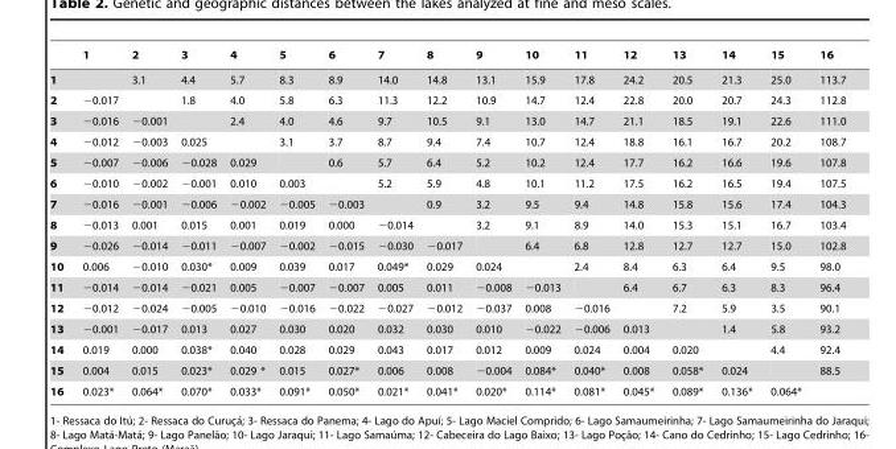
<table><thead><tr><td></td><td>1</td><td>2</td><td>3</td><td>4</td><td>5</td><td>6</td><td>7</td><td>8</td><td>9</td><td>10</td><td>11</td><td>12</td><td>13</td><td>14</td><td>15</td><td>16</td></tr></thead><tbody><tr><td>1</td><td></td><td>3.1</td><td>4.4</td><td>5.7</td><td>8.3</td><td>8.9</td><td>14.0</td><td>14.8</td><td>13.1</td><td>15.9</td><td>17.8</td><td>24.2</td><td>20.5</td><td>21.3</td><td>25.0</td><td>113.7</td></tr><tr><td>2</td><td>−0.017</td><td></td><td>1.8</td><td>4.0</td><td>5.8</td><td>6.3</td><td>11.3</td><td>12.2</td><td>10.9</td><td>14.7</td><td>12.4</td><td>22.8</td><td>20.0</td><td>20.7</td><td>24.3</td><td>112.8</td></tr><tr><td>3</td><td>−0.016</td><td>−0.001</td><td></td><td>2.4</td><td>4.0</td><td>4.6</td><td>9.7</td><td>10.5</td><td>9.1</td><td>13.0</td><td>14.7</td><td>21.1</td><td>18.5</td><td>19.1</td><td>22.6</td><td>111.0</td></tr><tr><td>4</td><td>−0.012</td><td>−0.003</td><td>0.025</td><td></td><td>3.1</td><td>3.7</td><td>8.7</td><td>9.4</td><td>7.4</td><td>10.7</td><td>12.4</td><td>18.8</td><td>16.1</td><td>16.7</td><td>20.2</td><td>108.7</td></tr><tr><td>5</td><td>−0.007</td><td>−0.006</td><td>−0.028</td><td>0.029</td><td></td><td>0.6</td><td>5.7</td><td>6.4</td><td>5.2</td><td>10.2</td><td>12.4</td><td>17.7</td><td>16.2</td><td>16.6</td><td>19.6</td><td>107.8</td></tr><tr><td>6</td><td>−0.010</td><td>−0.002</td><td>−0.001</td><td>0.010</td><td>0.003</td><td></td><td>5.2</td><td>5.9</td><td>4.8</td><td>10.1</td><td>11.2</td><td>17.5</td><td>16.2</td><td>16.5</td><td>19.4</td><td>107.5</td></tr><tr><td>7</td><td>−0.016</td><td>−0.001</td><td>−0.006</td><td>−0.002</td><td>−0.005</td><td>−0.003</td><td></td><td>0.9</td><td>3.2</td><td>9.5</td><td>9.4</td><td>14.8</td><td>15.8</td><td>15.6</td><td>17.4</td><td>104.3</td></tr><tr><td>8</td><td>−0.013</td><td>0.001</td><td>0.015</td><td>0.001</td><td>0.019</td><td>0.000</td><td>−0.014</td><td></td><td>3.2</td><td>9.1</td><td>8.9</td><td>14.0</td><td>15.3</td><td>15.1</td><td>16.7</td><td>103.4</td></tr><tr><td>9</td><td>−0.026</td><td>−0.014</td><td>−0.011</td><td>−0.007</td><td>−0.002</td><td>−0.015</td><td>−0.030</td><td>−0.017</td><td></td><td>6.4</td><td>6.8</td><td>12.8</td><td>12.7</td><td>12.7</td><td>15.0</td><td>102.8</td></tr><tr><td>10</td><td>0.006</td><td>−0.010</td><td>0.030*</td><td>0.009</td><td>0.039</td><td>0.017</td><td>0.049*</td><td>0.029</td><td>0.024</td><td></td><td>2.4</td><td>8.4</td><td>6.3</td><td>6.4</td><td>9.5</td><td>98.0</td></tr><tr><td>11</td><td>−0.014</td><td>−0.014</td><td>−0.021</td><td>0.005</td><td>−0.007</td><td>−0.007</td><td>0.005</td><td>0.011</td><td>−0.008</td><td>−0.013</td><td></td><td>6.4</td><td>6.7</td><td>6.3</td><td>8.3</td><td>96.4</td></tr><tr><td>12</td><td>−0.012</td><td>−0.024</td><td>−0.005</td><td>−0.010</td><td>−0.016</td><td>−0.022</td><td>−0.027</td><td>−0.012</td><td>−0.037</td><td>0.008</td><td>−0.016</td><td></td><td>7.2</td><td>5.9</td><td>3.5</td><td>90.1</td></tr><tr><td>13</td><td>−0.001</td><td>−0.017</td><td>0.013</td><td>0.027</td><td>0.030</td><td>0.020</td><td>0.032</td><td>0.030</td><td>0.010</td><td>−0.022</td><td>−0.006</td><td>0.013</td><td></td><td>1.4</td><td>5.8</td><td>93.2</td></tr><tr><td>14</td><td>0.019</td><td>0.000</td><td>0.038*</td><td>0.040</td><td>0.028</td><td>0.029</td><td>0.043</td><td>0.017</td><td>0.012</td><td>0.009</td><td>0.024</td><td>0.004</td><td>0.020</td><td></td><td>4.4</td><td>92.4</td></tr><tr><td>15</td><td>0.004</td><td>0.015</td><td>0.023*</td><td>0.029 *</td><td>0.015</td><td>0.027*</td><td>0.006</td><td>0.008</td><td>−0.004</td><td>0.084*</td><td>0.040*</td><td>0.008</td><td>0.058*</td><td>0.024</td><td></td><td>88.5</td></tr><tr><td>16</td><td>0.023*</td><td>0.064*</td><td>0.070*</td><td>0.033*</td><td>0.091*</td><td>0.050*</td><td>0.021*</td><td>0.041*</td><td>0.020*</td><td>0.114*</td><td>0.081*</td><td>0.045*</td><td>0.089*</td><td>0.136*</td><td>0.064*</td><td></td></tr></tbody></table>